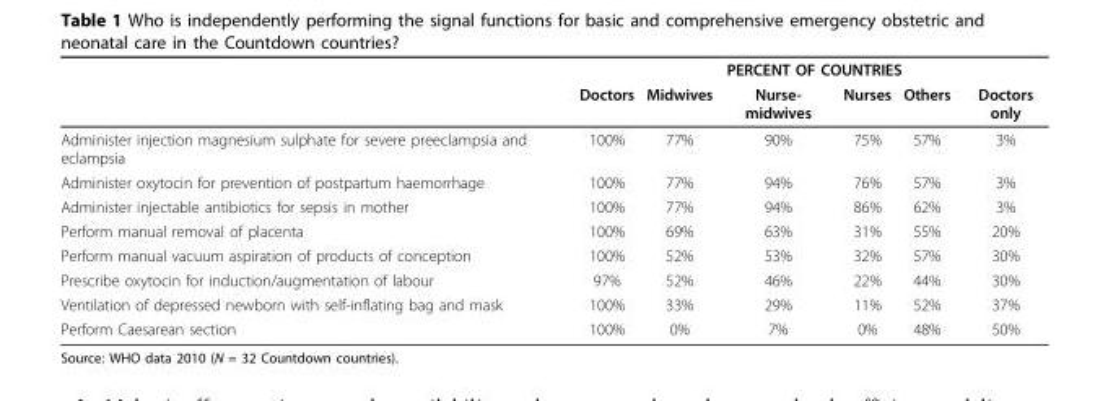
<table><thead><tr><td rowspan="2"></td><td colspan="6">PERCENT OF COUNTRIES</td></tr><tr><td>Doctors</td><td>Midwives</td><td>Nurse- midwives</td><td>Nurses</td><td>Others</td><td>Doctors only</td></tr></thead><tbody><tr><td>Administer injection magnesium sulphate for severe preeclampsia and eclampsia</td><td>100%</td><td>77%</td><td>90%</td><td>75%</td><td>57%</td><td>3%</td></tr><tr><td>Administer oxytocin for prevention of postpartum haemorrhage</td><td>100%</td><td>77%</td><td>94%</td><td>76%</td><td>57%</td><td>3%</td></tr><tr><td>Administer injectable antibiotics for sepsis in mother</td><td>100%</td><td>77%</td><td>94%</td><td>86%</td><td>62%</td><td>3%</td></tr><tr><td>Perform manual removal of placenta</td><td>100%</td><td>69%</td><td>63%</td><td>31%</td><td>55%</td><td>20%</td></tr><tr><td>Perform manual vacuum aspiration of products of conception</td><td>100%</td><td>52%</td><td>53%</td><td>32%</td><td>57%</td><td>30%</td></tr><tr><td>Prescribe oxytocin for induction/augmentation of labour</td><td>97%</td><td>52%</td><td>46%</td><td>22%</td><td>44%</td><td>30%</td></tr><tr><td>Ventilation of depressed newborn with self-inflating bag and mask</td><td>100%</td><td>33%</td><td>29%</td><td>11%</td><td>52%</td><td>37%</td></tr><tr><td>Perform Caesarean section</td><td>100%</td><td>0%</td><td>7%</td><td>0%</td><td>48%</td><td>50%</td></tr></tbody></table>